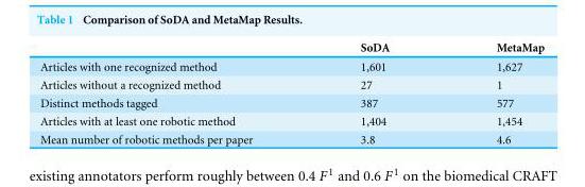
<table><thead><tr><td></td><td>SoDA</td><td>MetaMap</td></tr></thead><tbody><tr><td>Articles with one recognized method</td><td>1,601</td><td>1,627</td></tr><tr><td>Articles without a recognized method</td><td>27</td><td>1</td></tr><tr><td>Distinct methods tagged</td><td>387</td><td>577</td></tr><tr><td>Articles with at least one robotic method</td><td>1,404</td><td>1,454</td></tr><tr><td>Mean number of robotic methods per paper</td><td>3.8</td><td>4.6</td></tr></tbody></table>